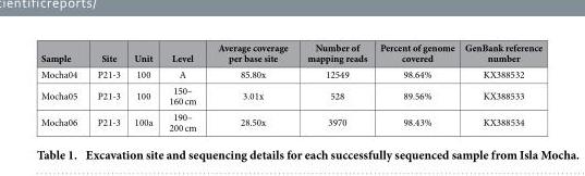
<table><thead><tr><td>Sample</td><td>Site</td><td>Unit</td><td>Level</td><td>Average coverage per base site</td><td>Number of mapping reads</td><td>Percent of genome covered</td><td>GenBank reference number</td></tr></thead><tbody><tr><td>Mocha04</td><td>P21-3</td><td>100</td><td>A</td><td>85.80x</td><td>12549</td><td>98.64%</td><td>KX388532</td></tr><tr><td>Mocha05</td><td>P21-3</td><td>100</td><td>150– 160 cm</td><td>3.01x</td><td>528</td><td>89.56%</td><td>KX388533</td></tr><tr><td>Mocha06</td><td>P21-3</td><td>100a</td><td>190– 200 cm</td><td>28.50x</td><td>3970</td><td>98.43%</td><td>KX388534</td></tr></tbody></table>